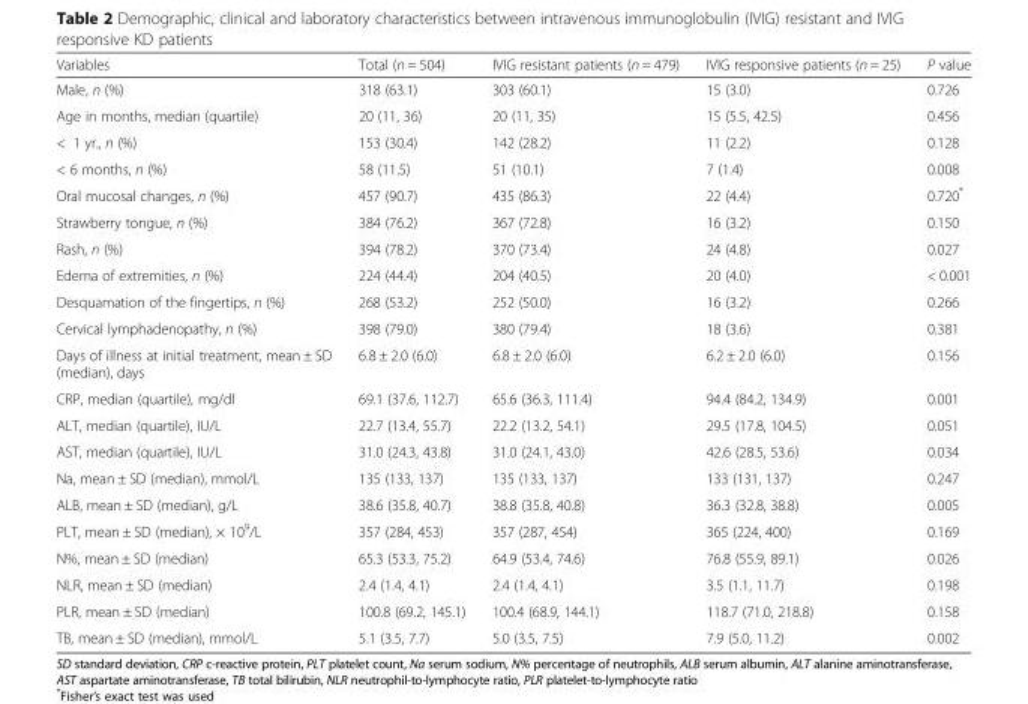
<table><thead><tr><td>Variables</td><td>Total (n = 504)</td><td>IVIG resistant patients (n = 479)</td><td>IVIG responsive patients (n = 25)</td><td>P value</td></tr></thead><tbody><tr><td>Male, n (%)</td><td>318 (63.1)</td><td>303 (60.1)</td><td>15 (3.0)</td><td>0.726</td></tr><tr><td>Age in months, median (quartile)</td><td>20 (11, 36)</td><td>20 (11, 35)</td><td>15 (5.5, 42.5)</td><td>0.456</td></tr><tr><td>&lt; 1 yr., n (%)</td><td>153 (30.4)</td><td>142 (28.2)</td><td>11 (2.2)</td><td>0.128</td></tr><tr><td>&lt; 6 months, n (%)</td><td>58 (11.5)</td><td>51 (10.1)</td><td>7 (1.4)</td><td>0.008</td></tr><tr><td>Oral mucosal changes, n (%)</td><td>457 (90.7)</td><td>435 (86.3)</td><td>22 (4.4)</td><td>0.720*</td></tr><tr><td>Strawberry tongue, n (%)</td><td>384 (76.2)</td><td>367 (72.8)</td><td>16 (3.2)</td><td>0.150</td></tr><tr><td>Rash, n (%)</td><td>394 (78.2)</td><td>370 (73.4)</td><td>24 (4.8)</td><td>0.027</td></tr><tr><td>Edema of extremities, n (%)</td><td>224 (44.4)</td><td>204 (40.5)</td><td>20 (4.0)</td><td>&lt; 0.001</td></tr><tr><td>Desquamation of the fingertips, n (%)</td><td>268 (53.2)</td><td>252 (50.0)</td><td>16 (3.2)</td><td>0.266</td></tr><tr><td>Cervical lymphadenopathy, n (%)</td><td>398 (79.0)</td><td>380 (79.4)</td><td>18 (3.6)</td><td>0.381</td></tr><tr><td>Days of illness at initial treatment, mean ± SD (median), days</td><td>6.8 ± 2.0 (6.0)</td><td>6.8 ± 2.0 (6.0)</td><td>6.2 ± 2.0 (6.0)</td><td>0.156</td></tr><tr><td>CRP, median (quartile), mg/dl</td><td>69.1 (37.6, 112.7)</td><td>65.6 (36.3, 111.4)</td><td>94.4 (84.2, 134.9)</td><td>0.001</td></tr><tr><td>ALT, median (quartile), IU/L</td><td>22.7 (13.4, 55.7)</td><td>22.2 (13.2, 54.1)</td><td>29.5 (17.8, 104.5)</td><td>0.051</td></tr><tr><td>AST, median (quartile), IU/L</td><td>31.0 (24.3, 43.8)</td><td>31.0 (24.1, 43.0)</td><td>42.6 (28.5, 53.6)</td><td>0.034</td></tr><tr><td>Na, mean ± SD (median), mmol/L</td><td>135 (133, 137)</td><td>135 (133, 137)</td><td>133 (131, 137)</td><td>0.247</td></tr><tr><td>ALB, mean ± SD (median), g/L</td><td>38.6 (35.8, 40.7)</td><td>38.8 (35.8, 40.8)</td><td>36.3 (32.8, 38.8)</td><td>0.005</td></tr><tr><td>PLT, mean ± SD (median), × 10<sup>9</sup>/L</td><td>357 (284, 453)</td><td>357 (287, 454)</td><td>365 (224, 400)</td><td>0.169</td></tr><tr><td>N%, mean ± SD (median)</td><td>65.3 (53.3, 75.2)</td><td>64.9 (53.4, 74.6)</td><td>76.8 (55.9, 89.1)</td><td>0.026</td></tr><tr><td>NLR, mean ± SD (median)</td><td>2.4 (1.4, 4.1)</td><td>2.4 (1.4, 4.1)</td><td>3.5 (1.1, 11.7)</td><td>0.198</td></tr><tr><td>PLR, mean ± SD (median)</td><td>100.8 (69.2, 145.1)</td><td>100.4 (68.9, 144.1)</td><td>118.7 (71.0, 218.8)</td><td>0.158</td></tr><tr><td>TB, mean ± SD (median), mmol/L</td><td>5.1 (3.5, 7.7)</td><td>5.0 (3.5, 7.5)</td><td>7.9 (5.0, 11.2)</td><td>0.002</td></tr></tbody></table>